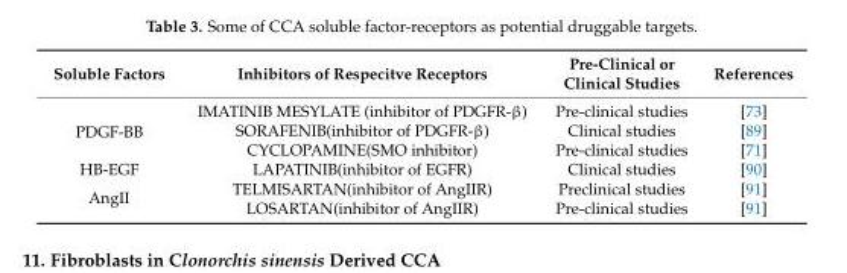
<table><thead><tr><td>Soluble Factors</td><td>Inhibitors of Respecitve Receptors</td><td>Pre-Clinical or Clinical Studies</td><td>References</td></tr></thead><tbody><tr><td rowspan="3">PDGF-BB</td><td>IMATINIB MESYLATE (inhibitor of PDGFR-β)</td><td>Pre-clinical studies</td><td>[73]</td></tr><tr><td>SORAFENIB(inhibitor of PDGFR-β)</td><td>Clinical studies</td><td>[89]</td></tr><tr><td>CYCLOPAMINE(SMO inhibitor)</td><td>Pre-clinical studies</td><td>[71]</td></tr><tr><td>HB-EGF</td><td>LAPATINIB(inhibitor of EGFR)</td><td>Clinical studies</td><td>[90]</td></tr><tr><td rowspan="2">AngII</td><td>TELMISARTAN(inhibitor of AngIIR)</td><td>Preclinical studies</td><td>[91]</td></tr><tr><td>LOSARTAN(inhibitor of AngIIR)</td><td>Pre-clinical studies</td><td>[91]</td></tr></tbody></table>